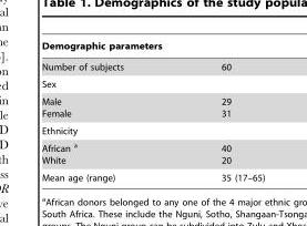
<table><thead><tr><td>Demographic parameters</td><td></td></tr></thead><tbody><tr><td>Number of subjects</td><td>60</td></tr><tr><td colspan="2">Sex</td></tr><tr><td>Male Female</td><td>29 31</td></tr><tr><td colspan="2">Ethnicity</td></tr><tr><td>African a White</td><td>40 20</td></tr><tr><td>Mean age (range)</td><td>35 (17–65)</td></tr></tbody></table>